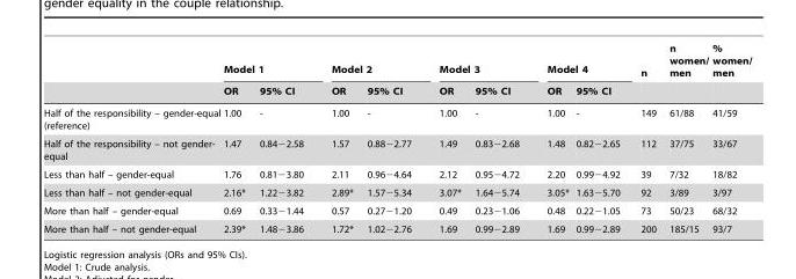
<table><thead><tr><td rowspan="2"></td><td colspan="2">Model 1</td><td colspan="2">Model 2</td><td colspan="2">Model 3</td><td colspan="2">Model 4</td><td rowspan="2">n</td><td rowspan="2">n women/ men</td><td rowspan="2">% women/ men</td></tr><tr><td>OR</td><td>95% CI</td><td>OR</td><td>95% CI</td><td>OR</td><td>95% CI</td><td>OR</td><td>95% CI</td></tr></thead><tbody><tr><td>Half of the responsibility – gender-equal (reference)</td><td>1.00</td><td>-</td><td>1.00</td><td>-</td><td>1.00</td><td>-</td><td>1.00</td><td>-</td><td>149</td><td>61/88</td><td>41/59</td></tr><tr><td>Half of the responsibility – not gender- equal</td><td>1.47</td><td>0.84−2.58</td><td>1.57</td><td>0.88−2.77</td><td>1.49</td><td>0.83−2.68</td><td>1.48</td><td>0.82−2.65</td><td>112</td><td>37/75</td><td>33/67</td></tr><tr><td>Less than half – gender-equal</td><td>1.76</td><td>0.81−3.80</td><td>2.11</td><td>0.96−4.64</td><td>2.12</td><td>0.95−4.72</td><td>2.20</td><td>0.99−4.92</td><td>39</td><td>7/32</td><td>18/82</td></tr><tr><td>Less than half – not gender-equal</td><td>2.16*</td><td>1.22−3.82</td><td>2.89*</td><td>1.57−5.34</td><td>3.07*</td><td>1.64−5.74</td><td>3.05*</td><td>1.63−5.70</td><td>92</td><td>3/89</td><td>3/97</td></tr><tr><td>More than half – gender-equal</td><td>0.69</td><td>0.33−1.44</td><td>0.57</td><td>0.27−1.20</td><td>0.49</td><td>0.23−1.06</td><td>0.48</td><td>0.22−1.05</td><td>73</td><td>50/23</td><td>68/32</td></tr><tr><td>More than half – not gender-equal</td><td>2.39*</td><td>1.48−3.86</td><td>1.72*</td><td>1.02−2.76</td><td>1.69</td><td>0.99−2.89</td><td>1.69</td><td>0.99−2.89</td><td>200</td><td>185/15</td><td>93/7</td></tr></tbody></table>